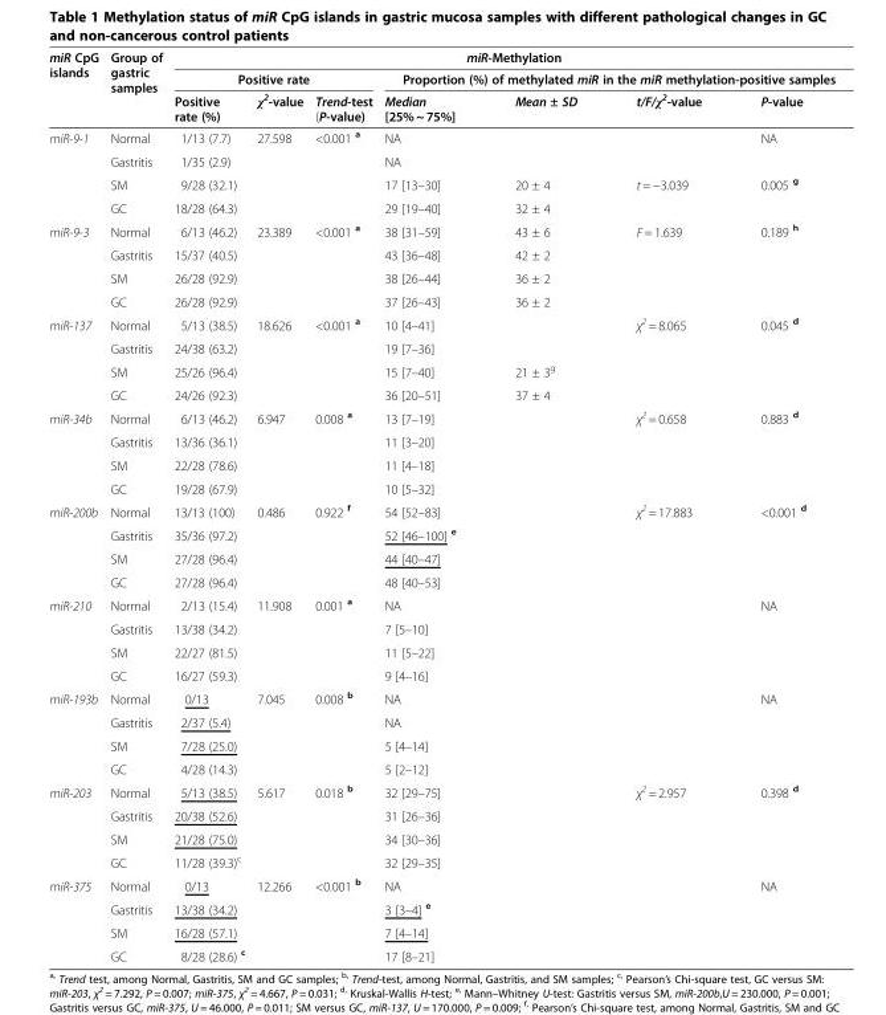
<table><thead><tr><td rowspan="3">miR CpG islands</td><td rowspan="3">Group of gastric samples</td><td colspan="7">miR-Methylation</td></tr><tr><td colspan="3">Positive rate</td><td colspan="4">Proportion (%) of methylated miR in the miR methylation-positive samples</td></tr><tr><td>Positive rate (%)</td><td>χ<sup>2</sup>-value</td><td>Trend-test (P-value)</td><td>Median [25% ~ 75%]</td><td>Mean ± SD</td><td>t/F/χ<sup>2</sup>-value</td><td>P-value</td></tr></thead><tbody><tr><td rowspan="4">miR-9-1</td><td>Normal</td><td>1/13 (7.7)</td><td>27.598</td><td>&lt;0.001 <sup>a</sup></td><td>NA</td><td></td><td></td><td>NA</td></tr><tr><td>Gastritis</td><td>1/35 (2.9)</td><td></td><td></td><td>NA</td><td></td><td></td><td></td></tr><tr><td>SM</td><td>9/28 (32.1)</td><td></td><td></td><td>17 [13–30]</td><td>20 ± 4</td><td>t = −3.039</td><td>0.005 <sup>g</sup></td></tr><tr><td>GC</td><td>18/28 (64.3)</td><td></td><td></td><td>29 [19–40]</td><td>32 ± 4</td><td></td><td></td></tr><tr><td rowspan="4">miR-9-3</td><td>Normal</td><td>6/13 (46.2)</td><td>23.389</td><td>&lt;0.001 <sup>a</sup></td><td>38 [31–59]</td><td>43 ± 6</td><td>F = 1.639</td><td>0.189 <sup>h</sup></td></tr><tr><td>Gastritis</td><td>15/37 (40.5)</td><td></td><td></td><td>43 [36–48]</td><td>42 ± 2</td><td></td><td></td></tr><tr><td>SM</td><td>26/28 (92.9)</td><td></td><td></td><td>38 [26–44]</td><td>36 ± 2</td><td></td><td></td></tr><tr><td>GC</td><td>26/28 (92.9)</td><td></td><td></td><td>37 [26–43]</td><td>36 ± 2</td><td></td><td></td></tr><tr><td rowspan="4">miR-137</td><td>Normal</td><td>5/13 (38.5)</td><td>18.626</td><td>&lt;0.001 <sup>a</sup></td><td>10 [4–41]</td><td></td><td>χ<sup>2</sup> = 8.065</td><td>0.045 <sup>d</sup></td></tr><tr><td>Gastritis</td><td>24/38 (63.2)</td><td></td><td></td><td>19 [7–36]</td><td></td><td></td><td></td></tr><tr><td>SM</td><td>25/26 (96.4)</td><td></td><td></td><td>15 [7–40]</td><td>21 ± 3<sup>g</sup></td><td></td><td></td></tr><tr><td>GC</td><td>24/26 (92.3)</td><td></td><td></td><td>36 [20–51]</td><td>37 ± 4</td><td></td><td></td></tr><tr><td rowspan="4">miR-34b</td><td>Normal</td><td>6/13 (46.2)</td><td>6.947</td><td>0.008 <sup>a</sup></td><td>13 [7–19]</td><td></td><td>χ<sup>2</sup> = 0.658</td><td>0.883 <sup>d</sup></td></tr><tr><td>Gastritis</td><td>13/36 (36.1)</td><td></td><td></td><td>11 [3–20]</td><td></td><td></td><td></td></tr><tr><td>SM</td><td>22/28 (78.6)</td><td></td><td></td><td>11 [4–18]</td><td></td><td></td><td></td></tr><tr><td>GC</td><td>19/28 (67.9)</td><td></td><td></td><td>10 [5–32]</td><td></td><td></td><td></td></tr><tr><td rowspan="4">miR-200b</td><td>Normal</td><td>13/13 (100)</td><td>0.486</td><td>0.922 <sup>f</sup></td><td>54 [52–83]</td><td></td><td>χ<sup>2</sup> = 17.883</td><td>&lt;0.001 <sup>d</sup></td></tr><tr><td>Gastritis</td><td>35/36 (97.2)</td><td></td><td></td><td>52 [46–100] <sup>e</sup></td><td></td><td></td><td></td></tr><tr><td>SM</td><td>27/28 (96.4)</td><td></td><td></td><td>44 [40–47]</td><td></td><td></td><td></td></tr><tr><td>GC</td><td>27/28 (96.4)</td><td></td><td></td><td>48 [40–53]</td><td></td><td></td><td></td></tr><tr><td rowspan="4">miR-210</td><td>Normal</td><td>2/13 (15.4)</td><td>11.908</td><td>0.001 <sup>a</sup></td><td>NA</td><td></td><td></td><td>NA</td></tr><tr><td>Gastritis</td><td>13/38 (34.2)</td><td></td><td></td><td>7 [5–10]</td><td></td><td></td><td></td></tr><tr><td>SM</td><td>22/27 (81.5)</td><td></td><td></td><td>11 [5–22]</td><td></td><td></td><td></td></tr><tr><td>GC</td><td>16/27 (59.3)</td><td></td><td></td><td>9 [4–16]</td><td></td><td></td><td></td></tr><tr><td rowspan="4">miR-193b</td><td>Normal</td><td>0/13</td><td>7.045</td><td>0.008 <sup>b</sup></td><td>NA</td><td></td><td></td><td>NA</td></tr><tr><td>Gastritis</td><td>2/37 (5.4)</td><td></td><td></td><td>NA</td><td></td><td></td><td></td></tr><tr><td>SM</td><td>7/28 (25.0)</td><td></td><td></td><td>5 [4–14]</td><td></td><td></td><td></td></tr><tr><td>GC</td><td>4/28 (14.3)</td><td></td><td></td><td>5 [2–12]</td><td></td><td></td><td></td></tr><tr><td rowspan="4">miR-203</td><td>Normal</td><td>5/13 (38.5)</td><td>5.617</td><td>0.018 <sup>b</sup></td><td>32 [29–75]</td><td></td><td>χ<sup>2</sup> = 2.957</td><td>0.398 <sup>d</sup></td></tr><tr><td>Gastritis</td><td>20/38 (52.6)</td><td></td><td></td><td>31 [26–36]</td><td></td><td></td><td></td></tr><tr><td>SM</td><td>21/28 (75.0)</td><td></td><td></td><td>34 [30–36]</td><td></td><td></td><td></td></tr><tr><td>GC</td><td>11/28 (39.3)<sup>c</sup></td><td></td><td></td><td>32 [29–35]</td><td></td><td></td><td></td></tr><tr><td rowspan="4">miR-375</td><td>Normal</td><td>0/13</td><td>12.266</td><td>&lt;0.001 <sup>b</sup></td><td>NA</td><td></td><td></td><td>NA</td></tr><tr><td>Gastritis</td><td>13/38 (34.2)</td><td></td><td></td><td>3 [3–4] <sup>e</sup></td><td></td><td></td><td></td></tr><tr><td>SM</td><td>16/28 (57.1)</td><td></td><td></td><td>7 [4–14]</td><td></td><td></td><td></td></tr><tr><td>GC</td><td>8/28 (28.6) <sup>c</sup></td><td></td><td></td><td>17 [8–21]</td><td></td><td></td><td></td></tr></tbody></table>